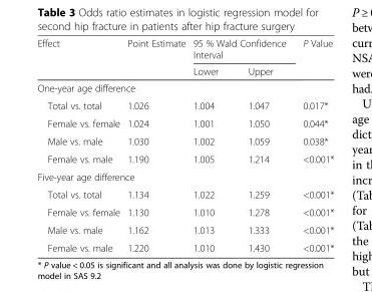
<table><thead><tr><td rowspan="2">Effect</td><td rowspan="2">Point Estimate</td><td colspan="2">95 % Wald Confidence Interval</td><td rowspan="2">P Value</td></tr><tr><td>Lower</td><td>Upper</td></tr></thead><tbody><tr><td colspan="5">One-year age difference</td></tr><tr><td>Total vs. total</td><td>1.026</td><td>1.004</td><td>1.047</td><td>0.017*</td></tr><tr><td>Female vs. female</td><td>1.024</td><td>1.001</td><td>1.050</td><td>0.044*</td></tr><tr><td>Male vs. male</td><td>1.030</td><td>1.002</td><td>1.059</td><td>0.038*</td></tr><tr><td>Female vs. male</td><td>1.190</td><td>1.005</td><td>1.214</td><td>&lt;0.001*</td></tr><tr><td colspan="5">Five-year age difference</td></tr><tr><td>Total vs. total</td><td>1.134</td><td>1.022</td><td>1.259</td><td>&lt;0.001*</td></tr><tr><td>Female vs. female</td><td>1.130</td><td>1.010</td><td>1.278</td><td>&lt;0.001*</td></tr><tr><td>Male vs. male</td><td>1.162</td><td>1.013</td><td>1.333</td><td>&lt;0.001*</td></tr><tr><td>Female vs. male</td><td>1.220</td><td>1.010</td><td>1.430</td><td>&lt;0.001*</td></tr></tbody></table>